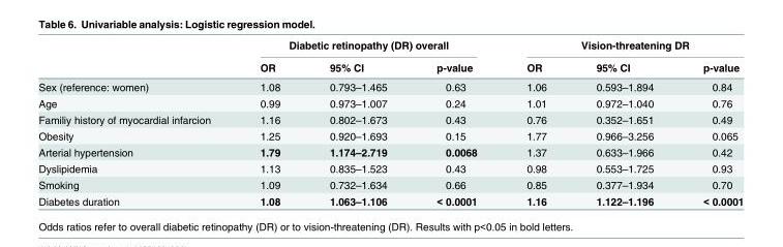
<table><thead><tr><td rowspan="2"></td><td colspan="3">Diabetic retinopathy (DR) overall</td><td colspan="3">Vision-threatening DR</td></tr><tr><td>OR</td><td>95% CI</td><td>p-value</td><td>OR</td><td>95% CI</td><td>p-value</td></tr></thead><tbody><tr><td>Sex (reference: women)</td><td>1.08</td><td>0.793–1.465</td><td>0.63</td><td>1.06</td><td>0.593–1.894</td><td>0.84</td></tr><tr><td>Age</td><td>0.99</td><td>0.973–1.007</td><td>0.24</td><td>1.01</td><td>0.972–1.040</td><td>0.76</td></tr><tr><td>Familiy history of myocardial infarcion</td><td>1.16</td><td>0.802–1.673</td><td>0.43</td><td>0.76</td><td>0.352–1.651</td><td>0.49</td></tr><tr><td>Obesity</td><td>1.25</td><td>0.920–1.693</td><td>0.15</td><td>1.77</td><td>0.966–3.256</td><td>0.065</td></tr><tr><td>Arterial hypertension</td><td>1.79</td><td>1.174–2.719</td><td>0.0068</td><td>1.37</td><td>0.633–1.966</td><td>0.42</td></tr><tr><td>Dyslipidemia</td><td>1.13</td><td>0.835–1.523</td><td>0.43</td><td>0.98</td><td>0.553–1.725</td><td>0.93</td></tr><tr><td>Smoking</td><td>1.09</td><td>0.732–1.634</td><td>0.66</td><td>0.85</td><td>0.377–1.934</td><td>0.70</td></tr><tr><td>Diabetes duration</td><td>1.08</td><td>1.063–1.106</td><td>&lt; 0.0001</td><td>1.16</td><td>1.122–1.196</td><td>&lt; 0.0001</td></tr></tbody></table>